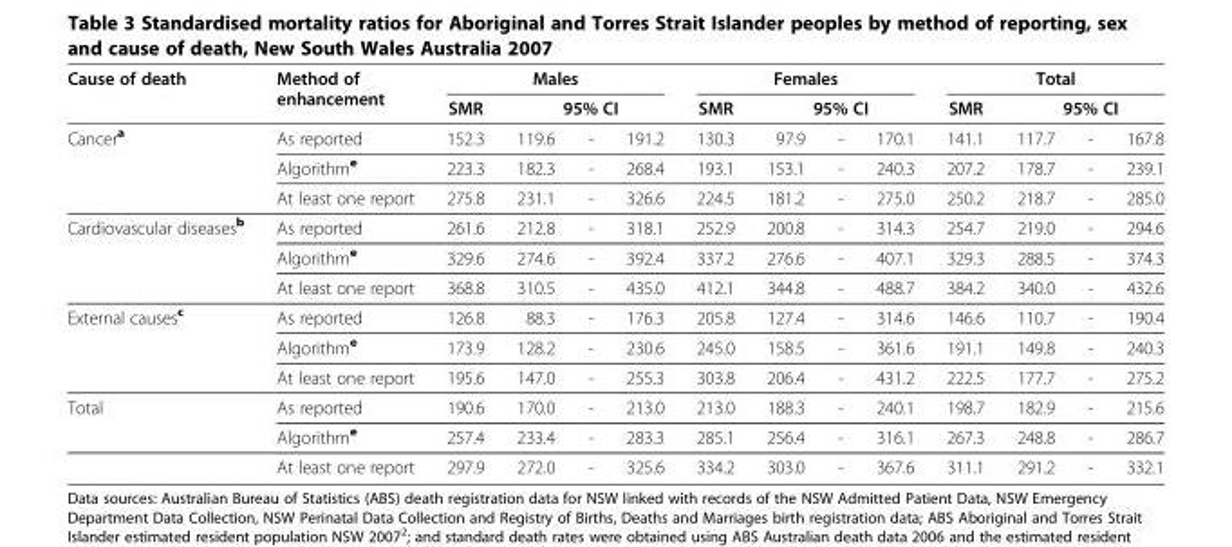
<table><thead><tr><td rowspan="3">Cause of death Cancer<sup>a</sup></td><td rowspan="3">Method of enhancement As reported</td><td colspan="4">Males</td><td colspan="4">Females</td><td colspan="4">Total</td></tr><tr><td rowspan="2">SMR 152.3</td><td colspan="3">95% CI</td><td rowspan="2">SMR 130.3</td><td colspan="3">95% CI</td><td rowspan="2">SMR 141.1</td><td colspan="3">95% CI</td></tr><tr><td>119.6</td><td>-</td><td>191.2</td><td>97.9</td><td>-</td><td>170.1</td><td>117.7</td><td>-</td><td>167.8</td></tr></thead><tbody><tr><td></td><td>Algorithm<sup>e</sup></td><td>223.3</td><td>182.3</td><td>-</td><td>268.4</td><td>193.1</td><td>153.1</td><td>-</td><td>240.3</td><td>207.2</td><td>178.7</td><td>-</td><td>239.1</td></tr><tr><td></td><td>At least one report</td><td>275.8</td><td>231.1</td><td>-</td><td>326.6</td><td>224.5</td><td>181.2</td><td>-</td><td>275.0</td><td>250.2</td><td>218.7</td><td>-</td><td>285.0</td></tr><tr><td rowspan="3">Cardiovascular diseases<sup>b</sup></td><td>As reported</td><td>261.6</td><td>212.8</td><td>-</td><td>318.1</td><td>252.9</td><td>200.8</td><td>-</td><td>314.3</td><td>254.7</td><td>219.0</td><td>-</td><td>294.6</td></tr><tr><td>Algorithm<sup>e</sup></td><td>329.6</td><td>274.6</td><td>-</td><td>392.4</td><td>337.2</td><td>276.6</td><td>-</td><td>407.1</td><td>329.3</td><td>288.5</td><td>-</td><td>374.3</td></tr><tr><td>At least one report</td><td>368.8</td><td>310.5</td><td>-</td><td>435.0</td><td>412.1</td><td>344.8</td><td>-</td><td>488.7</td><td>384.2</td><td>340.0</td><td>-</td><td>432.6</td></tr><tr><td rowspan="3">External causes<sup>c</sup></td><td>As reported</td><td>126.8</td><td>88.3</td><td>-</td><td>176.3</td><td>205.8</td><td>127.4</td><td>-</td><td>314.6</td><td>146.6</td><td>110.7</td><td>-</td><td>190.4</td></tr><tr><td>Algorithm<sup>e</sup></td><td>173.9</td><td>128.2</td><td>-</td><td>230.6</td><td>245.0</td><td>158.5</td><td>-</td><td>361.6</td><td>191.1</td><td>149.8</td><td>-</td><td>240.3</td></tr><tr><td>At least one report</td><td>195.6</td><td>147.0</td><td>-</td><td>255.3</td><td>303.8</td><td>206.4</td><td>-</td><td>431.2</td><td>222.5</td><td>177.7</td><td>-</td><td>275.2</td></tr><tr><td rowspan="3">Total</td><td>As reported</td><td>190.6</td><td>170.0</td><td>-</td><td>213.0</td><td>213.0</td><td>188.3</td><td>-</td><td>240.1</td><td>198.7</td><td>182.9</td><td>-</td><td>215.6</td></tr><tr><td>Algorithm<sup>e</sup></td><td>257.4</td><td>233.4</td><td>-</td><td>283.3</td><td>285.1</td><td>256.4</td><td>-</td><td>316.1</td><td>267.3</td><td>248.8</td><td>-</td><td>286.7</td></tr><tr><td>At least one report</td><td>297.9</td><td>272.0</td><td>-</td><td>325.6</td><td>334.2</td><td>303.0</td><td>-</td><td>367.6</td><td>311.1</td><td>291.2</td><td>-</td><td>332.1</td></tr></tbody></table>